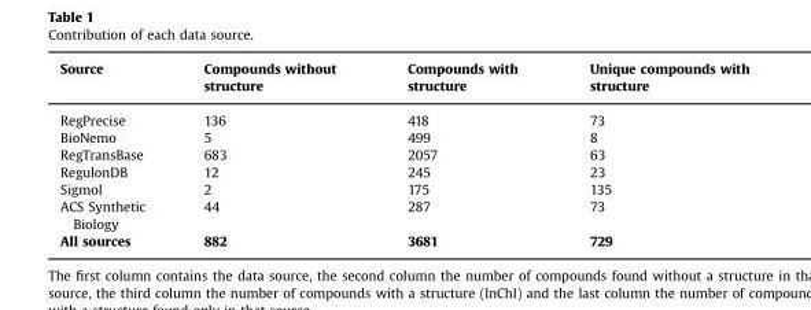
<table><thead><tr><td>Source</td><td>Compounds without structure</td><td>Compounds with structure</td><td>Unique compounds with structure</td></tr></thead><tbody><tr><td>RegPrecise</td><td>136</td><td>418</td><td>73</td></tr><tr><td>BioNemo</td><td>5</td><td>499</td><td>8</td></tr><tr><td>RegTransBase</td><td>683</td><td>2057</td><td>63</td></tr><tr><td>RegulonDB</td><td>12</td><td>245</td><td>23</td></tr><tr><td>Sigmol</td><td>2</td><td>175</td><td>135</td></tr><tr><td>ACS Synthetic Biology</td><td>44</td><td>287</td><td>73</td></tr><tr><td>All sources</td><td>882</td><td>3681</td><td>729</td></tr></tbody></table>